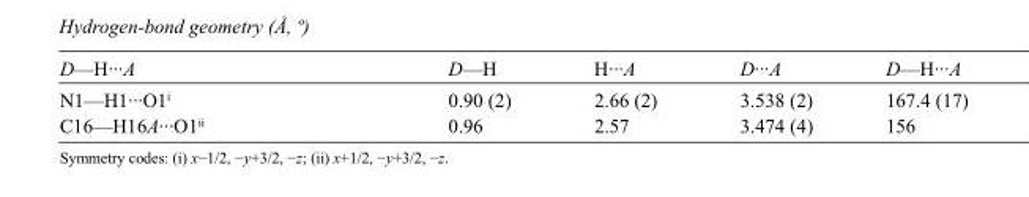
<table><tbody><tr><td>D—H···A</td><td>D—H</td><td>H···A</td><td>D···A</td><td>D—H···A</td></tr><tr><td>N1—H1···O1<sup>i</sup></td><td>0.90 (2)</td><td>2.66 (2)</td><td>3.538 (2)</td><td>167.4 (17)</td></tr><tr><td>C16—H16A···O1<sup>ii</sup></td><td>0.96</td><td>2.57</td><td>3.474 (4)</td><td>156</td></tr></tbody></table>